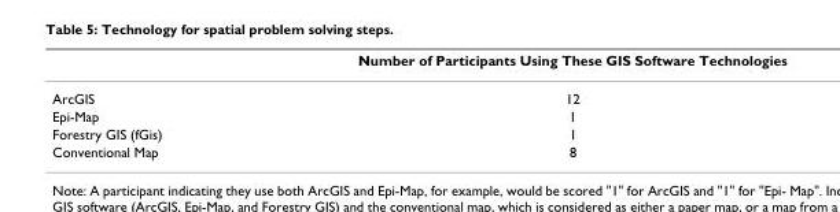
<table><thead><tr><td></td><td>Number of Participants Using These GIS Software Technologies</td></tr></thead><tbody><tr><td>ArcGIS</td><td>12</td></tr><tr><td>Epi-Map</td><td>1</td></tr><tr><td>Forestry GIS (fGis)</td><td>1</td></tr><tr><td>Conventional Map</td><td>8</td></tr></tbody></table>